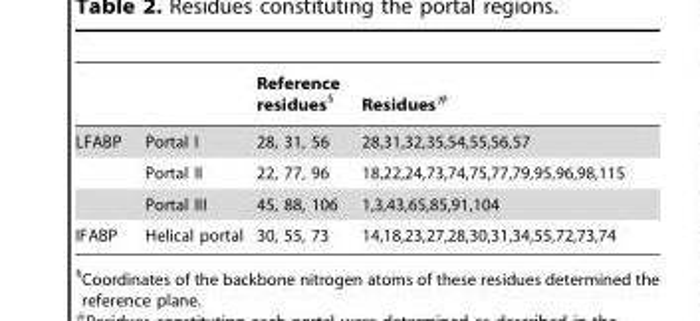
<table><thead><tr><td></td><td></td><td>Reference residues§</td><td>Residues#</td></tr></thead><tbody><tr><td rowspan="3">LFABP</td><td>Portal I</td><td>28, 31, 56</td><td>28,31,32,35,54,55,56,57</td></tr><tr><td>Portal II</td><td>22, 77, 96</td><td>18,22,24,73,74,75,77,79,95,96,98,115</td></tr><tr><td>Portal III</td><td>45, 88, 106</td><td>1,3,43,65,85,91,104</td></tr><tr><td>IFABP</td><td>Helical portal</td><td>30, 55, 73</td><td>14,18,23,27,28,30,31,34,55,72,73,74</td></tr></tbody></table>